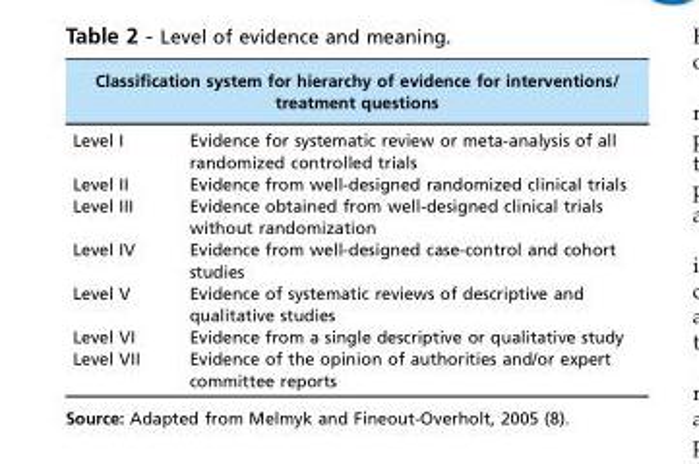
<table><thead><tr><td colspan="2">Classification system for hierarchy of evidence for interventions/ treatment questions</td></tr><tr><td>Level I</td><td>Evidence for systematic review or meta-analysis of all randomized controlled trials</td></tr></thead><tbody><tr><td>Level II</td><td>Evidence from well-designed randomized clinical trials</td></tr><tr><td>Level III</td><td>Evidence obtained from well-designed clinical trials without randomization</td></tr><tr><td>Level IV</td><td>Evidence from well-designed case-control and cohort studies</td></tr><tr><td>Level V</td><td>Evidence of systematic reviews of descriptive and qualitative studies</td></tr><tr><td>Level VI</td><td>Evidence from a single descriptive or qualitative study</td></tr><tr><td>Level VII</td><td>Evidence of the opinion of authorities and/or expert committee reports</td></tr></tbody></table>